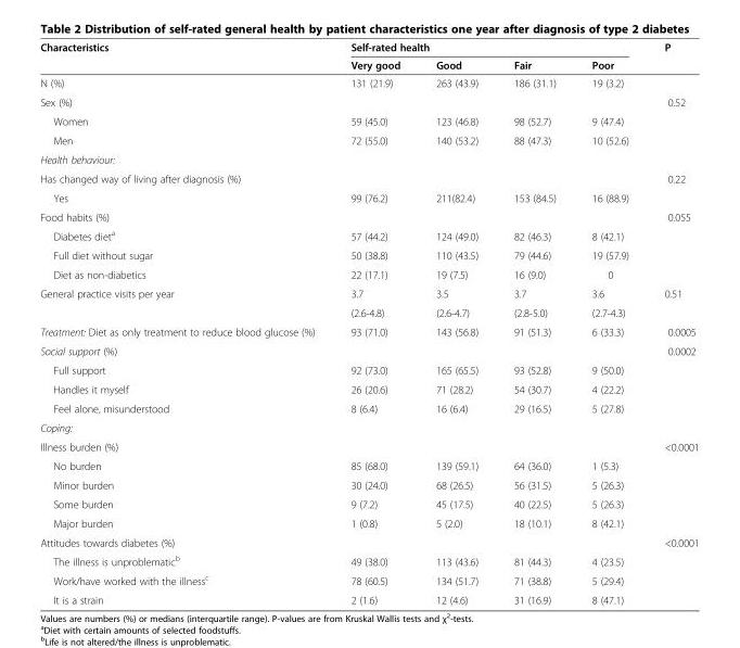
<table><thead><tr><td rowspan="2">Characteristics</td><td colspan="4">Self-rated health</td><td rowspan="2">P</td></tr><tr><td>Very good</td><td>Good</td><td>Fair</td><td>Poor</td></tr></thead><tbody><tr><td>N (%)</td><td>131 (21.9)</td><td>263 (43.9)</td><td>186 (31.1)</td><td>19 (3.2)</td><td></td></tr><tr><td>Sex (%)</td><td></td><td></td><td></td><td></td><td>0.52</td></tr><tr><td>Women</td><td>59 (45.0)</td><td>123 (46.8)</td><td>98 (52.7)</td><td>9 (47.4)</td><td></td></tr><tr><td>Men</td><td>72 (55.0)</td><td>140 (53.2)</td><td>88 (47.3)</td><td>10 (52.6)</td><td></td></tr><tr><td colspan="6">Health behaviour:</td></tr><tr><td>Has changed way of living after diagnosis (%)</td><td></td><td></td><td></td><td></td><td>0.22</td></tr><tr><td>Yes</td><td>99 (76.2)</td><td>211(82.4)</td><td>153 (84.5)</td><td>16 (88.9)</td><td></td></tr><tr><td>Food habits (%)</td><td></td><td></td><td></td><td></td><td>0.055</td></tr><tr><td>Diabetes diet<sup>a</sup></td><td>57 (44.2)</td><td>124 (49.0)</td><td>82 (46.3)</td><td>8 (42.1)</td><td rowspan="3"></td></tr><tr><td>Full diet without sugar</td><td>50 (38.8)</td><td>110 (43.5)</td><td>79 (44.6)</td><td>19 (57.9)</td></tr><tr><td>Diet as non-diabetics</td><td>22 (17.1)</td><td>19 (7.5)</td><td>16 (9.0)</td><td>0</td></tr><tr><td rowspan="2">General practice visits per year</td><td>3.7</td><td>3.5</td><td>3.7</td><td>3.6</td><td rowspan="2">0.51</td></tr><tr><td>(2.6-4.8)</td><td>(2.6-4.7)</td><td>(2.8-5.0)</td><td>(2.7-4.3)</td></tr><tr><td>Treatment: Diet as only treatment to reduce blood glucose (%)</td><td>93 (71.0)</td><td>143 (56.8)</td><td>91 (51.3)</td><td>6 (33.3)</td><td>0.0005</td></tr><tr><td>Social support (%)</td><td></td><td></td><td></td><td></td><td>0.0002</td></tr><tr><td>Full support</td><td>92 (73.0)</td><td>165 (65.5)</td><td>93 (52.8)</td><td>9 (50.0)</td><td rowspan="3"></td></tr><tr><td>Handles it myself</td><td>26 (20.6)</td><td>71 (28.2)</td><td>54 (30.7)</td><td>4 (22.2)</td></tr><tr><td>Feel alone, misunderstood</td><td>8 (6.4)</td><td>16 (6.4)</td><td>29 (16.5)</td><td>5 (27.8)</td></tr><tr><td colspan="6">Coping:</td></tr><tr><td>Illness burden (%)</td><td></td><td></td><td></td><td></td><td>&lt;0.0001</td></tr><tr><td>No burden</td><td>85 (68.0)</td><td>139 (59.1)</td><td>64 (36.0)</td><td>1 (5.3)</td><td rowspan="4"></td></tr><tr><td>Minor burden</td><td>30 (24.0)</td><td>68 (26.5)</td><td>56 (31.5)</td><td>5 (26.3)</td></tr><tr><td>Some burden</td><td>9 (7.2)</td><td>45 (17.5)</td><td>40 (22.5)</td><td>5 (26.3)</td></tr><tr><td>Major burden</td><td>1 (0.8)</td><td>5 (2.0)</td><td>18 (10.1)</td><td>8 (42.1)</td></tr><tr><td>Attitudes towards diabetes (%)</td><td></td><td></td><td></td><td></td><td>&lt;0.0001</td></tr><tr><td>The illness is unproblematic<sup>b</sup></td><td>49 (38.0)</td><td>113 (43.6)</td><td>81 (44.3)</td><td>4 (23.5)</td><td rowspan="3"></td></tr><tr><td>Work/have worked with the illness<sup>c</sup></td><td>78 (60.5)</td><td>134 (51.7)</td><td>71 (38.8)</td><td>5 (29.4)</td></tr><tr><td>It is a strain</td><td>2 (1.6)</td><td>12 (4.6)</td><td>31 (16.9)</td><td>8 (47.1)</td></tr></tbody></table>